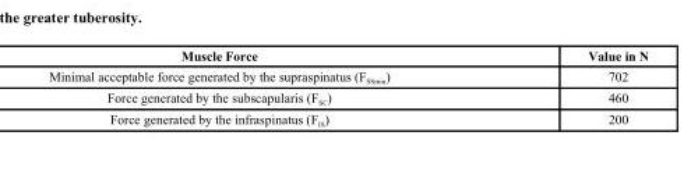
<table><thead><tr><td>Muscle Force</td><td>Value in N</td></tr></thead><tbody><tr><td>Minimal acceptable force generated by the supraspinatus (F<sub>SSmin</sub>)</td><td>702</td></tr><tr><td>Force generated by the subscapularis (F<sub>SC</sub>)</td><td>460</td></tr><tr><td>Force generated by the infraspinatus (F<sub>IS</sub>)</td><td>200</td></tr></tbody></table>